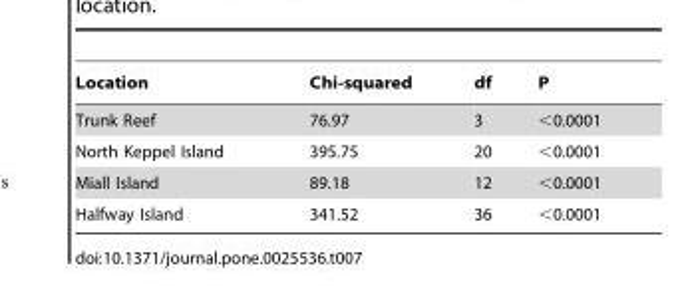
<table><thead><tr><td>Location</td><td>Chi-squared</td><td>df</td><td>P</td></tr></thead><tbody><tr><td>Trunk Reef</td><td>76.97</td><td>3</td><td>&lt;0.0001</td></tr><tr><td>North Keppel Island</td><td>395.75</td><td>20</td><td>&lt;0.0001</td></tr><tr><td>Miall Island</td><td>89.18</td><td>12</td><td>&lt;0.0001</td></tr><tr><td>Halfway Island</td><td>341.52</td><td>36</td><td>&lt;0.0001</td></tr></tbody></table>